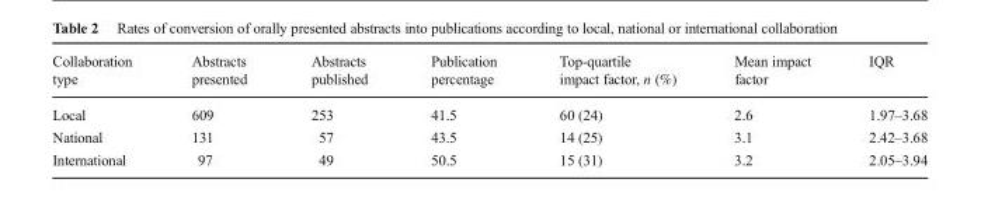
<table><thead><tr><td>Collaboration type</td><td>Abstracts presented</td><td>Abstracts published</td><td>Publication percentage</td><td>Top-quartile impact factor, n (%)</td><td>Mean impact factor</td><td>IQR</td></tr></thead><tbody><tr><td>Local</td><td>609</td><td>253</td><td>41.5</td><td>60 (24)</td><td>2.6</td><td>1.97–3.68</td></tr><tr><td>National</td><td>131</td><td>57</td><td>43.5</td><td>14 (25)</td><td>3.1</td><td>2.42–3.68</td></tr><tr><td>International</td><td>97</td><td>49</td><td>50.5</td><td>15 (31)</td><td>3.2</td><td>2.05–3.94</td></tr></tbody></table>